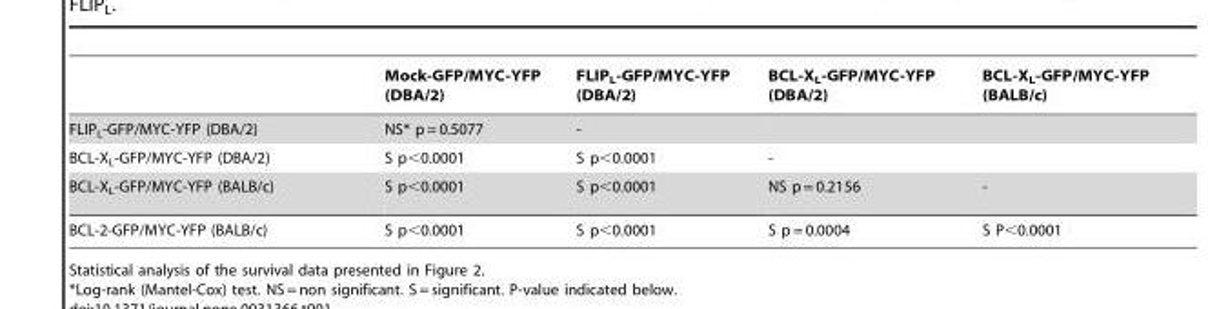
<table><thead><tr><td></td><td>Mock-GFP/MYC-YFP (DBA/2)</td><td>FLIP<sub>L</sub>-GFP/MYC-YFP (DBA/2)</td><td>BCL-X<sub>L</sub>-GFP/MYC-YFP (DBA/2)</td><td>BCL-X<sub>L</sub>-GFP/MYC-YFP (BALB/c)</td></tr></thead><tbody><tr><td>FLIP<sub>L</sub>-GFP/MYC-YFP (DBA/2)</td><td>NS* p = 0.5077</td><td>-</td><td></td><td></td></tr><tr><td>BCL-X<sub>L</sub>-GFP/MYC-YFP (DBA/2)</td><td>S p&lt;0.0001</td><td>S p&lt;0.0001</td><td>-</td><td></td></tr><tr><td>BCL-X<sub>L</sub>-GFP/MYC-YFP (BALB/c)</td><td>S p&lt;0.0001</td><td>S p&lt;0.0001</td><td>NS p = 0.2156</td><td>-</td></tr><tr><td>BCL-2-GFP/MYC-YFP (BALB/c)</td><td>S p&lt;0.0001</td><td>S p&lt;0.0001</td><td>S p = 0.0004</td><td>S P&lt;0.0001</td></tr></tbody></table>